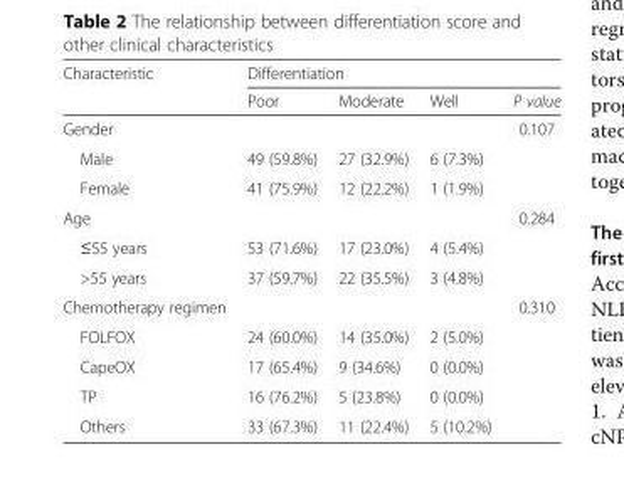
<table><thead><tr><td rowspan="2">Characteristic</td><td colspan="4">Differentiation</td></tr><tr><td>Poor</td><td>Moderate</td><td>Well</td><td>P value</td></tr></thead><tbody><tr><td>Gender</td><td></td><td></td><td></td><td>0.107</td></tr><tr><td>Male</td><td>49 (59.8%)</td><td>27 (32.9%)</td><td>6 (7.3%)</td><td></td></tr><tr><td>Female</td><td>41 (75.9%)</td><td>12 (22.2%)</td><td>1 (1.9%)</td><td></td></tr><tr><td>Age</td><td></td><td></td><td></td><td>0.284</td></tr><tr><td>≤55 years</td><td>53 (71.6%)</td><td>17 (23.0%)</td><td>4 (5.4%)</td><td></td></tr><tr><td>&gt;55 years</td><td>37 (59.7%)</td><td>22 (35.5%)</td><td>3 (4.8%)</td><td></td></tr><tr><td>Chemotherapy regimen</td><td></td><td></td><td></td><td>0.310</td></tr><tr><td>FOLFOX</td><td>24 (60.0%)</td><td>14 (35.0%)</td><td>2 (5.0%)</td><td></td></tr><tr><td>CapeOX</td><td>17 (65.4%)</td><td>9 (34.6%)</td><td>0 (0.0%)</td><td></td></tr><tr><td>TP</td><td>16 (76.2%)</td><td>5 (23.8%)</td><td>0 (0.0%)</td><td></td></tr><tr><td>Others</td><td>33 (67.3%)</td><td>11 (22.4%)</td><td>5 (10.2%)</td><td></td></tr></tbody></table>